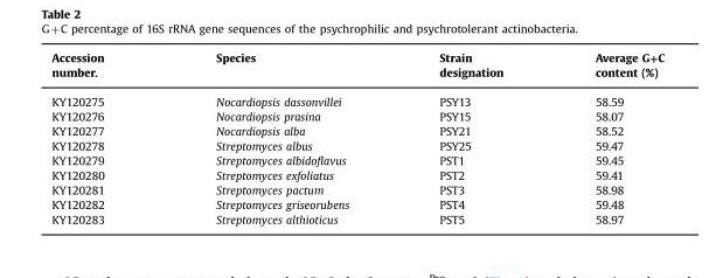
<table><thead><tr><td>Accession number.</td><td>Species</td><td>Strain designation</td><td>Average G+C content (%)</td></tr></thead><tbody><tr><td>KY120275</td><td>Nocardiopsis dassonvillei</td><td>PSY13</td><td>58.59</td></tr><tr><td>KY120276</td><td>Nocardiopsis prasina</td><td>PSY15</td><td>58.07</td></tr><tr><td>KY120277</td><td>Nocardiopsis alba</td><td>PSY21</td><td>58.52</td></tr><tr><td>KY120278</td><td>Streptomyces albus</td><td>PSY25</td><td>59.47</td></tr><tr><td>KY120279</td><td>Streptomyces albidoflavus</td><td>PST1</td><td>59.45</td></tr><tr><td>KY120280</td><td>Streptomyces exfoliatus</td><td>PST2</td><td>59.41</td></tr><tr><td>KY120281</td><td>Streptomyces pactum</td><td>PST3</td><td>58.98</td></tr><tr><td>KY120282</td><td>Streptomyces griseorubens</td><td>PST4</td><td>59.48</td></tr><tr><td>KY120283</td><td>Streptomyces althioticus</td><td>PST5</td><td>58.97</td></tr></tbody></table>